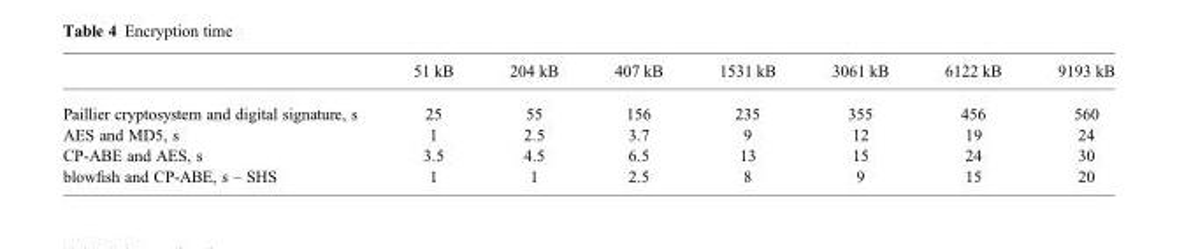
<table><thead><tr><td></td><td>51 kB</td><td>204 kB</td><td>407 kB</td><td>1531 kB</td><td>3061 kB</td><td>6122 kB</td><td>9193 kB</td></tr></thead><tbody><tr><td>Paillier cryptosystem and digital signature, s</td><td>25</td><td>55</td><td>156</td><td>235</td><td>355</td><td>456</td><td>560</td></tr><tr><td>AES and MD5, s</td><td>1</td><td>2.5</td><td>3.7</td><td>9</td><td>12</td><td>19</td><td>24</td></tr><tr><td>CP-ABE and AES, s</td><td>3.5</td><td>4.5</td><td>6.5</td><td>13</td><td>15</td><td>24</td><td>30</td></tr><tr><td>blowfish and CP-ABE, s – SHS</td><td>1</td><td>1</td><td>2.5</td><td>8</td><td>9</td><td>15</td><td>20</td></tr></tbody></table>